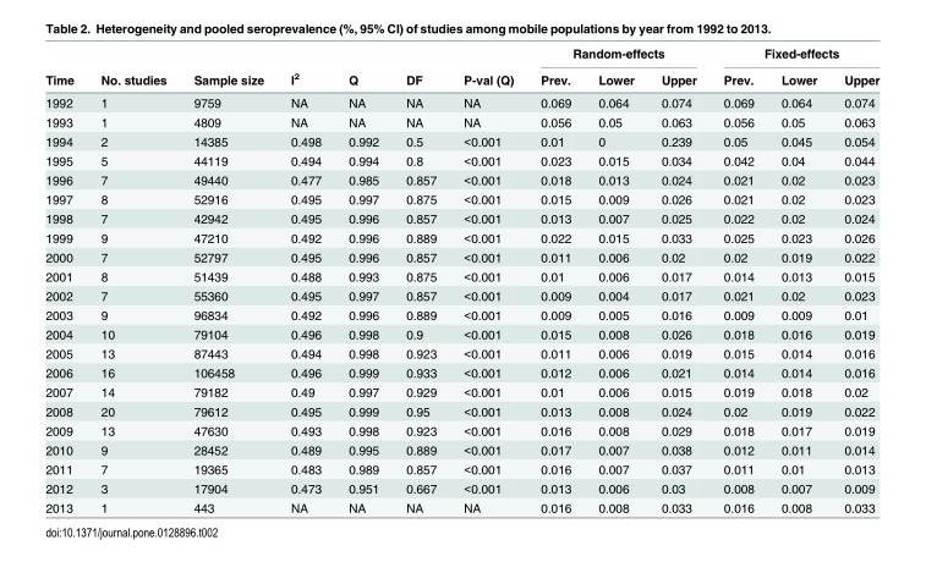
<table><thead><tr><td rowspan="2">Time</td><td rowspan="2">No. studies</td><td rowspan="2">Sample size</td><td rowspan="2">I<sup>2</sup></td><td rowspan="2">Q</td><td rowspan="2">DF</td><td rowspan="2">P-val (Q)</td><td colspan="3">Random-effects</td><td colspan="3">Fixed-effects</td></tr><tr><td>Prev.</td><td>Lower</td><td>Upper</td><td>Prev.</td><td>Lower</td><td>Upper</td></tr></thead><tbody><tr><td>1992</td><td>1</td><td>9759</td><td>NA</td><td>NA</td><td>NA</td><td>NA</td><td>0.069</td><td>0.064</td><td>0.074</td><td>0.069</td><td>0.064</td><td>0.074</td></tr><tr><td>1993</td><td>1</td><td>4809</td><td>NA</td><td>NA</td><td>NA</td><td>NA</td><td>0.056</td><td>0.05</td><td>0.063</td><td>0.056</td><td>0.05</td><td>0.063</td></tr><tr><td>1994</td><td>2</td><td>14385</td><td>0.498</td><td>0.992</td><td>0.5</td><td>&lt;0.001</td><td>0.01</td><td>0</td><td>0.239</td><td>0.05</td><td>0.045</td><td>0.054</td></tr><tr><td>1995</td><td>5</td><td>44119</td><td>0.494</td><td>0.994</td><td>0.8</td><td>&lt;0.001</td><td>0.023</td><td>0.015</td><td>0.034</td><td>0.042</td><td>0.04</td><td>0.044</td></tr><tr><td>1996</td><td>7</td><td>49440</td><td>0.477</td><td>0.985</td><td>0.857</td><td>&lt;0.001</td><td>0.018</td><td>0.013</td><td>0.024</td><td>0.021</td><td>0.02</td><td>0.023</td></tr><tr><td>1997</td><td>8</td><td>52916</td><td>0.495</td><td>0.997</td><td>0.875</td><td>&lt;0.001</td><td>0.015</td><td>0.009</td><td>0.026</td><td>0.021</td><td>0.02</td><td>0.023</td></tr><tr><td>1998</td><td>7</td><td>42942</td><td>0.495</td><td>0.996</td><td>0.857</td><td>&lt;0.001</td><td>0.013</td><td>0.007</td><td>0.025</td><td>0.022</td><td>0.02</td><td>0.024</td></tr><tr><td>1999</td><td>9</td><td>47210</td><td>0.492</td><td>0.996</td><td>0.889</td><td>&lt;0.001</td><td>0.022</td><td>0.015</td><td>0.033</td><td>0.025</td><td>0.023</td><td>0.026</td></tr><tr><td>2000</td><td>7</td><td>52797</td><td>0.495</td><td>0.996</td><td>0.857</td><td>&lt;0.001</td><td>0.011</td><td>0.006</td><td>0.02</td><td>0.02</td><td>0.019</td><td>0.022</td></tr><tr><td>2001</td><td>8</td><td>51439</td><td>0.488</td><td>0.993</td><td>0.875</td><td>&lt;0.001</td><td>0.01</td><td>0.006</td><td>0.017</td><td>0.014</td><td>0.013</td><td>0.015</td></tr><tr><td>2002</td><td>7</td><td>55360</td><td>0.495</td><td>0.997</td><td>0.857</td><td>&lt;0.001</td><td>0.009</td><td>0.004</td><td>0.017</td><td>0.021</td><td>0.02</td><td>0.023</td></tr><tr><td>2003</td><td>9</td><td>96834</td><td>0.492</td><td>0.996</td><td>0.889</td><td>&lt;0.001</td><td>0.009</td><td>0.005</td><td>0.016</td><td>0.009</td><td>0.009</td><td>0.01</td></tr><tr><td>2004</td><td>10</td><td>79104</td><td>0.496</td><td>0.998</td><td>0.9</td><td>&lt;0.001</td><td>0.015</td><td>0.008</td><td>0.026</td><td>0.018</td><td>0.016</td><td>0.019</td></tr><tr><td>2005</td><td>13</td><td>87443</td><td>0.494</td><td>0.998</td><td>0.923</td><td>&lt;0.001</td><td>0.011</td><td>0.006</td><td>0.019</td><td>0.015</td><td>0.014</td><td>0.016</td></tr><tr><td>2006</td><td>16</td><td>106458</td><td>0.496</td><td>0.999</td><td>0.933</td><td>&lt;0.001</td><td>0.012</td><td>0.006</td><td>0.021</td><td>0.014</td><td>0.014</td><td>0.016</td></tr><tr><td>2007</td><td>14</td><td>79182</td><td>0.49</td><td>0.997</td><td>0.929</td><td>&lt;0.001</td><td>0.01</td><td>0.006</td><td>0.015</td><td>0.019</td><td>0.018</td><td>0.02</td></tr><tr><td>2008</td><td>20</td><td>79612</td><td>0.495</td><td>0.999</td><td>0.95</td><td>&lt;0.001</td><td>0.013</td><td>0.008</td><td>0.024</td><td>0.02</td><td>0.019</td><td>0.022</td></tr><tr><td>2009</td><td>13</td><td>47630</td><td>0.493</td><td>0.998</td><td>0.923</td><td>&lt;0.001</td><td>0.016</td><td>0.008</td><td>0.029</td><td>0.018</td><td>0.017</td><td>0.019</td></tr><tr><td>2010</td><td>9</td><td>28452</td><td>0.489</td><td>0.995</td><td>0.889</td><td>&lt;0.001</td><td>0.017</td><td>0.007</td><td>0.038</td><td>0.012</td><td>0.011</td><td>0.014</td></tr><tr><td>2011</td><td>7</td><td>19365</td><td>0.483</td><td>0.989</td><td>0.857</td><td>&lt;0.001</td><td>0.016</td><td>0.007</td><td>0.037</td><td>0.011</td><td>0.01</td><td>0.013</td></tr><tr><td>2012</td><td>3</td><td>17904</td><td>0.473</td><td>0.951</td><td>0.667</td><td>&lt;0.001</td><td>0.013</td><td>0.006</td><td>0.03</td><td>0.008</td><td>0.007</td><td>0.009</td></tr><tr><td>2013</td><td>1</td><td>443</td><td>NA</td><td>NA</td><td>NA</td><td>NA</td><td>0.016</td><td>0.008</td><td>0.033</td><td>0.016</td><td>0.008</td><td>0.033</td></tr></tbody></table>